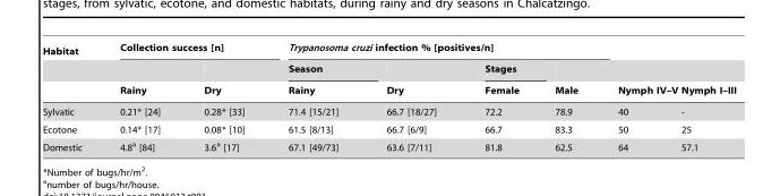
<table><thead><tr><td rowspan="3">Habitat</td><td colspan="2">Collection success [n]</td><td colspan="4">Trypanosoma cruzi infection % [positives/n]</td><td rowspan="3">Nymph IV–V</td><td rowspan="3">Nymph I–III</td></tr><tr><td rowspan="2">Rainy</td><td rowspan="2">Dry</td><td rowspan="2">Season Rainy</td><td rowspan="2">Dry</td><td rowspan="2">Stages Female</td><td rowspan="2">Male</td></tr><tr></tr></thead><tbody><tr><td>Sylvatic</td><td>0.21* [24]</td><td>0.28* [33]</td><td>71.4 [15/21]</td><td>66.7 [18/27]</td><td>72.2</td><td>78.9</td><td>40</td><td>-</td></tr><tr><td>Ecotone</td><td>0.14* [17]</td><td>0.08* [10]</td><td>61.5 [8/13]</td><td>66.7 [6/9]</td><td>66.7</td><td>83.3</td><td>50</td><td>25</td></tr><tr><td>Domestic</td><td>4.8<sup>a</sup> [84]</td><td>3.6<sup>a</sup> [17]</td><td>67.1 [49/73]</td><td>63.6 [7/11]</td><td>81.8</td><td>62.5</td><td>64</td><td>57.1</td></tr></tbody></table>